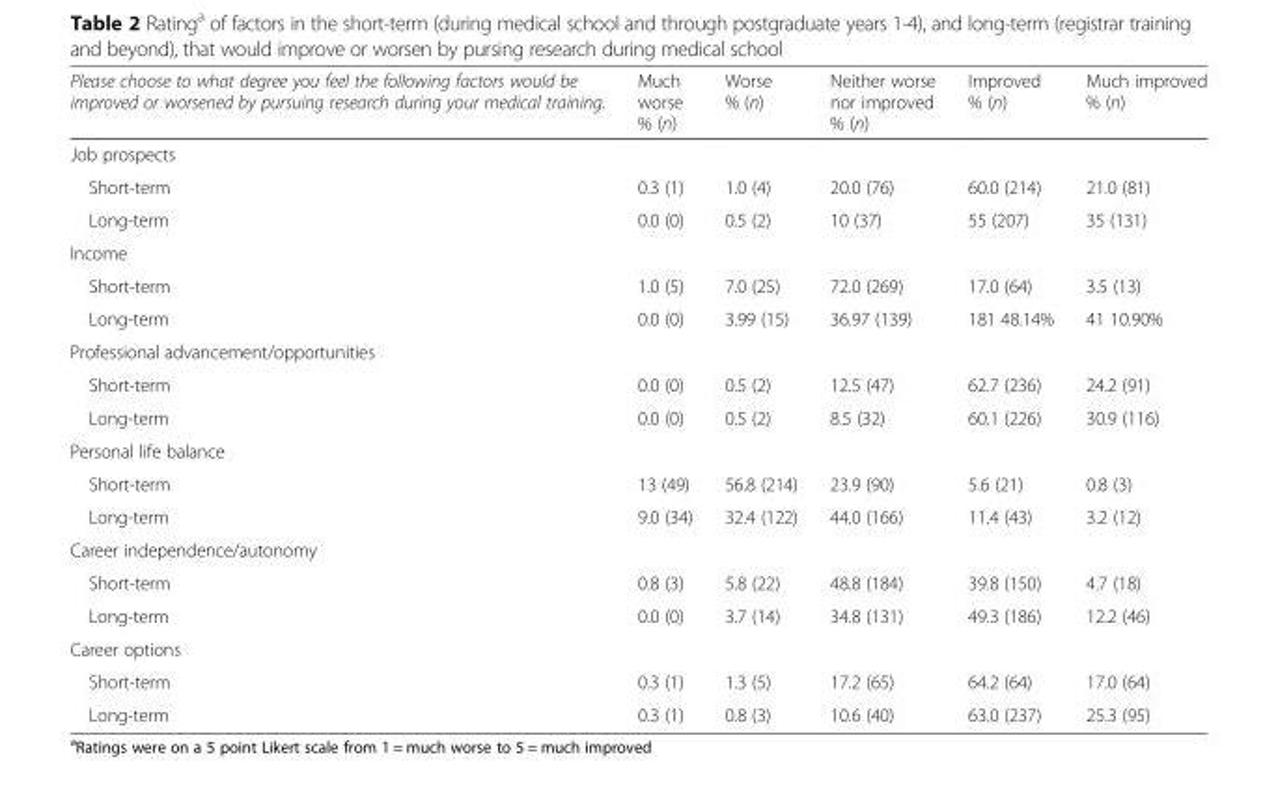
<table><thead><tr><td>Please choose to what degree you feel the following factors would be improved or worsened by pursuing research during your medical training.</td><td>Much worse % (n)</td><td>Worse % (n)</td><td>Neither worse nor improved % (n)</td><td>Improved % (n)</td><td>Much improved % (n)</td></tr></thead><tbody><tr><td colspan="6">Job prospects</td></tr><tr><td>Short-term</td><td>0.3 (1)</td><td>1.0 (4)</td><td>20.0 (76)</td><td>60.0 (214)</td><td>21.0 (81)</td></tr><tr><td>Long-term</td><td>0.0 (0)</td><td>0.5 (2)</td><td>10 (37)</td><td>55 (207)</td><td>35 (131)</td></tr><tr><td colspan="6">Income</td></tr><tr><td>Short-term</td><td>1.0 (5)</td><td>7.0 (25)</td><td>72.0 (269)</td><td>17.0 (64)</td><td>3.5 (13)</td></tr><tr><td>Long-term</td><td>0.0 (0)</td><td>3.99 (15)</td><td>36.97 (139)</td><td>181 48.14%</td><td>41 10.90%</td></tr><tr><td colspan="6">Professional advancement/opportunities</td></tr><tr><td>Short-term</td><td>0.0 (0)</td><td>0.5 (2)</td><td>12.5 (47)</td><td>62.7 (236)</td><td>24.2 (91)</td></tr><tr><td>Long-term</td><td>0.0 (0)</td><td>0.5 (2)</td><td>8.5 (32)</td><td>60.1 (226)</td><td>30.9 (116)</td></tr><tr><td colspan="6">Personal life balance</td></tr><tr><td>Short-term</td><td>13 (49)</td><td>56.8 (214)</td><td>23.9 (90)</td><td>5.6 (21)</td><td>0.8 (3)</td></tr><tr><td>Long-term</td><td>9.0 (34)</td><td>32.4 (122)</td><td>44.0 (166)</td><td>11.4 (43)</td><td>3.2 (12)</td></tr><tr><td colspan="6">Career independence/autonomy</td></tr><tr><td>Short-term</td><td>0.8 (3)</td><td>5.8 (22)</td><td>48.8 (184)</td><td>39.8 (150)</td><td>4.7 (18)</td></tr><tr><td>Long-term</td><td>0.0 (0)</td><td>3.7 (14)</td><td>34.8 (131)</td><td>49.3 (186)</td><td>12.2 (46)</td></tr><tr><td colspan="6">Career options</td></tr><tr><td>Short-term</td><td>0.3 (1)</td><td>1.3 (5)</td><td>17.2 (65)</td><td>64.2 (64)</td><td>17.0 (64)</td></tr><tr><td>Long-term</td><td>0.3 (1)</td><td>0.8 (3)</td><td>10.6 (40)</td><td>63.0 (237)</td><td>25.3 (95)</td></tr></tbody></table>